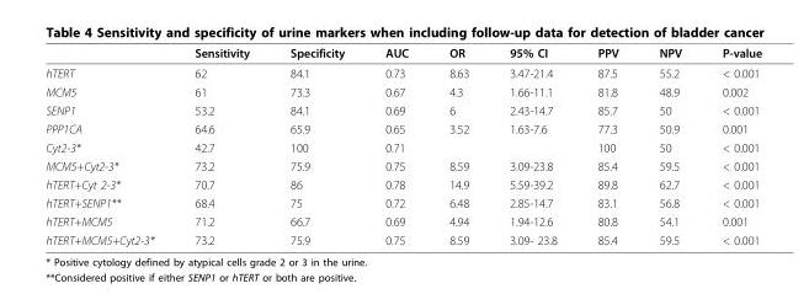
<table><thead><tr><td></td><td>Sensitivity</td><td>Specificity</td><td>AUC</td><td>OR</td><td>95% CI</td><td>PPV</td><td>NPV</td><td>P-value</td></tr></thead><tbody><tr><td>hTERT</td><td>62</td><td>84.1</td><td>0.73</td><td>8.63</td><td>3.47-21.4</td><td>87.5</td><td>55.2</td><td>&lt; 0.001</td></tr><tr><td>MCM5</td><td>61</td><td>73.3</td><td>0.67</td><td>4.3</td><td>1.66-11.1</td><td>81.8</td><td>48.9</td><td>0.002</td></tr><tr><td>SENP1</td><td>53.2</td><td>84.1</td><td>0.69</td><td>6</td><td>2.43-14.7</td><td>85.7</td><td>50</td><td>&lt; 0.001</td></tr><tr><td>PPP1CA</td><td>64.6</td><td>65.9</td><td>0.65</td><td>3.52</td><td>1.63-7.6</td><td>77.3</td><td>50.9</td><td>0.001</td></tr><tr><td>Cyt2-3*</td><td>42.7</td><td>100</td><td>0.71</td><td></td><td></td><td>100</td><td>50</td><td>&lt; 0.001</td></tr><tr><td>MCM5+Cyt2-3*</td><td>73.2</td><td>75.9</td><td>0.75</td><td>8.59</td><td>3.09-23.8</td><td>85.4</td><td>59.5</td><td>&lt; 0.001</td></tr><tr><td>hTERT+Cyt 2-3*</td><td>70.7</td><td>86</td><td>0.78</td><td>14.9</td><td>5.59-39.2</td><td>89.8</td><td>62.7</td><td>&lt; 0.001</td></tr><tr><td>hTERT+SENP1**</td><td>68.4</td><td>75</td><td>0.72</td><td>6.48</td><td>2.85-14.7</td><td>83.1</td><td>56.8</td><td>&lt; 0.001</td></tr><tr><td>hTERT+MCM5</td><td>71.2</td><td>66.7</td><td>0.69</td><td>4.94</td><td>1.94-12.6</td><td>80.8</td><td>54.1</td><td>0.001</td></tr><tr><td>hTERT+MCM5+Cyt2-3*</td><td>73.2</td><td>75.9</td><td>0.75</td><td>8.59</td><td>3.09- 23.8</td><td>85.4</td><td>59.5</td><td>&lt; 0.001</td></tr></tbody></table>